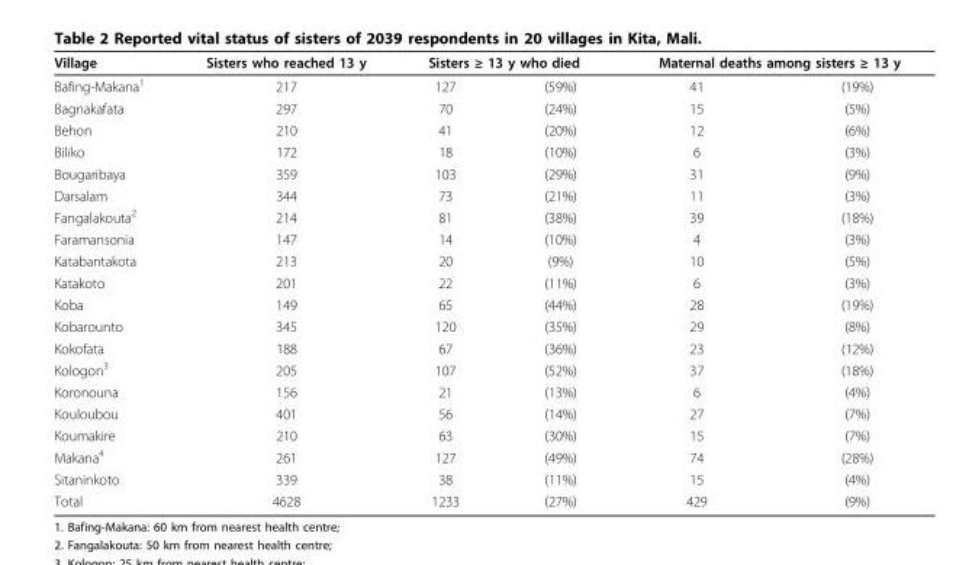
<table><thead><tr><td rowspan="2">Village Bafing-Makana<sup>1</sup></td><td rowspan="2">Sisters who reached 13 y 217</td><td colspan="2">Sisters ≥ 13 y who died</td><td colspan="2">Maternal deaths among sisters ≥ 13 y</td></tr><tr><td>127</td><td>(59%)</td><td>41</td><td>(19%)</td></tr></thead><tbody><tr><td>Bagnakafata</td><td>297</td><td>70</td><td>(24%)</td><td>15</td><td>(5%)</td></tr><tr><td>Behon</td><td>210</td><td>41</td><td>(20%)</td><td>12</td><td>(6%)</td></tr><tr><td>Biliko</td><td>172</td><td>18</td><td>(10%)</td><td>6</td><td>(3%)</td></tr><tr><td>Bougaribaya</td><td>359</td><td>103</td><td>(29%)</td><td>31</td><td>(9%)</td></tr><tr><td>Darsalam</td><td>344</td><td>73</td><td>(21%)</td><td>11</td><td>(3%)</td></tr><tr><td>Fangalakouta<sup>2</sup></td><td>214</td><td>81</td><td>(38%)</td><td>39</td><td>(18%)</td></tr><tr><td>Faramansonia</td><td>147</td><td>14</td><td>(10%)</td><td>4</td><td>(3%)</td></tr><tr><td>Katabantakota</td><td>213</td><td>20</td><td>(9%)</td><td>10</td><td>(5%)</td></tr><tr><td>Katakoto</td><td>201</td><td>22</td><td>(11%)</td><td>6</td><td>(3%)</td></tr><tr><td>Koba</td><td>149</td><td>65</td><td>(44%)</td><td>28</td><td>(19%)</td></tr><tr><td>Kobarounto</td><td>345</td><td>120</td><td>(35%)</td><td>29</td><td>(8%)</td></tr><tr><td>Kokofata</td><td>188</td><td>67</td><td>(36%)</td><td>23</td><td>(12%)</td></tr><tr><td>Kologon<sup>3</sup></td><td>205</td><td>107</td><td>(52%)</td><td>37</td><td>(18%)</td></tr><tr><td>Koronouna</td><td>156</td><td>21</td><td>(13%)</td><td>6</td><td>(4%)</td></tr><tr><td>Kouloubou</td><td>401</td><td>56</td><td>(14%)</td><td>27</td><td>(7%)</td></tr><tr><td>Koumakire</td><td>210</td><td>63</td><td>(30%)</td><td>15</td><td>(7%)</td></tr><tr><td>Makana<sup>4</sup></td><td>261</td><td>127</td><td>(49%)</td><td>74</td><td>(28%)</td></tr><tr><td>Sitaninkoto</td><td>339</td><td>38</td><td>(11%)</td><td>15</td><td>(4%)</td></tr><tr><td>Total</td><td>4628</td><td>1233</td><td>(27%)</td><td>429</td><td>(9%)</td></tr></tbody></table>